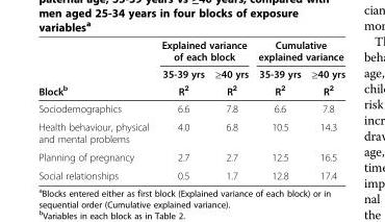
<table><thead><tr><td rowspan="3">Block<sup>b</sup></td><td colspan="2">Explained variance of each block</td><td colspan="2">Cumulative explained variance</td></tr><tr><td rowspan="2">35-39 yrs R<sup>2</sup></td><td rowspan="2">≥40 yrs R<sup>2</sup></td><td rowspan="2">35-39 yrs R<sup>2</sup></td><td rowspan="2">≥40 yrs R<sup>2</sup></td></tr><tr></tr></thead><tbody><tr><td>Sociodemographics</td><td>6.6</td><td>7.8</td><td>6.6</td><td>7.8</td></tr><tr><td>Health behaviour, physical and mental problems</td><td>4.0</td><td>6.8</td><td>10.5</td><td>14.3</td></tr><tr><td>Planning of pregnancy</td><td>2.7</td><td>2.7</td><td>12.5</td><td>16.5</td></tr><tr><td>Social relationships</td><td>0.5</td><td>1.7</td><td>12.8</td><td>17.4</td></tr></tbody></table>